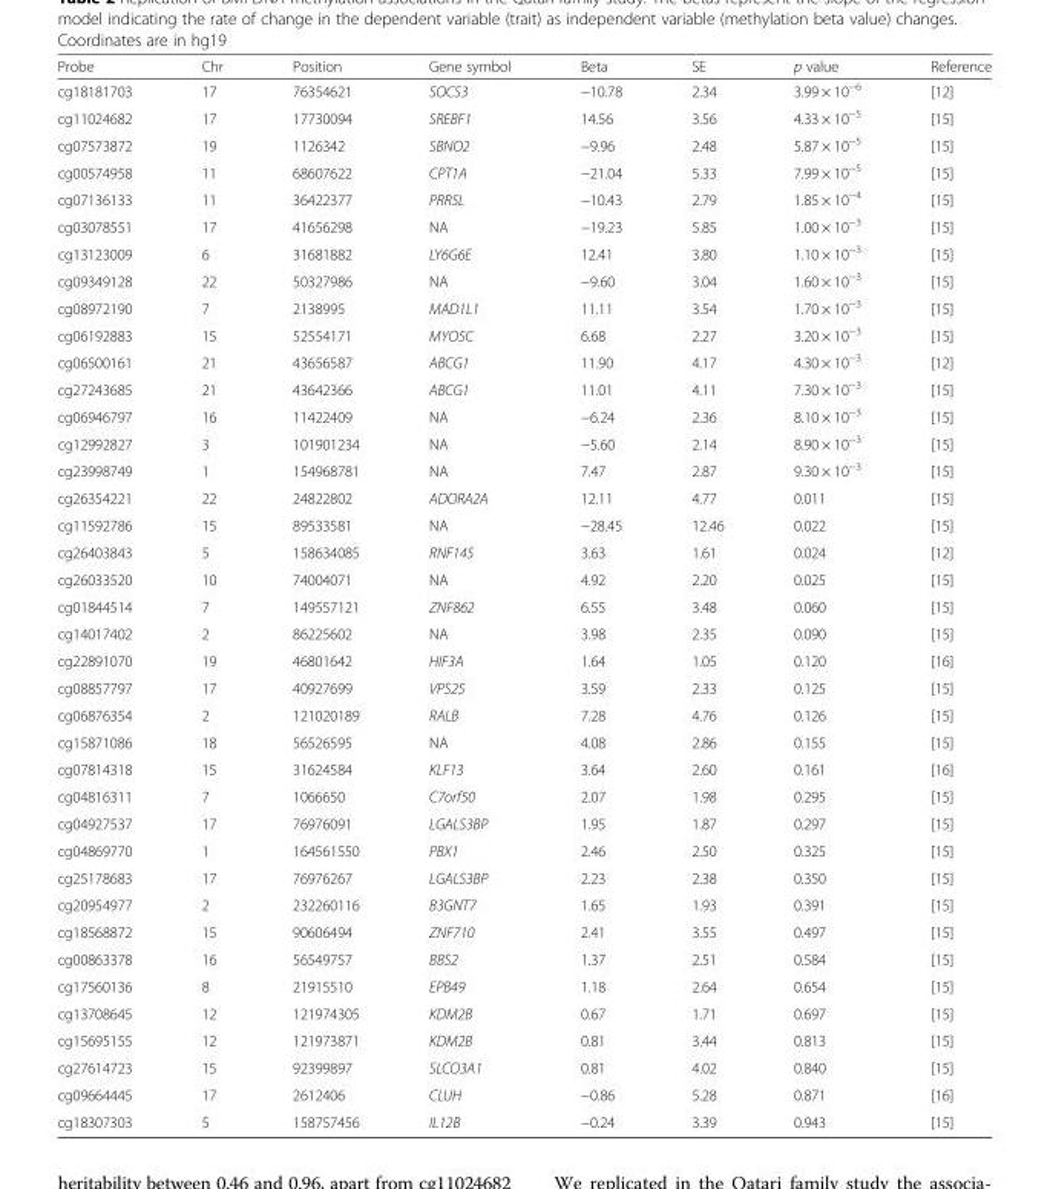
<table><thead><tr><td>Probe</td><td>Chr</td><td>Position</td><td>Gene symbol</td><td>Beta</td><td>SE</td><td>p value</td><td>Reference</td></tr></thead><tbody><tr><td>cg18181703</td><td>17</td><td>76354621</td><td>SOCS3</td><td>−10.78</td><td>2.34</td><td>3.99 × 10<sup>−6</sup></td><td>[12]</td></tr><tr><td>cg11024682</td><td>17</td><td>17730094</td><td>SREBF1</td><td>14.56</td><td>3.56</td><td>4.33 × 10<sup>−5</sup></td><td>[15]</td></tr><tr><td>cg07573872</td><td>19</td><td>1126342</td><td>SBNO2</td><td>−9.96</td><td>2.48</td><td>5.87 × 10<sup>−5</sup></td><td>[15]</td></tr><tr><td>cg00574958</td><td>11</td><td>68607622</td><td>CPT1A</td><td>−21.04</td><td>5.33</td><td>7.99 × 10<sup>−5</sup></td><td>[15]</td></tr><tr><td>cg07136133</td><td>11</td><td>36422377</td><td>PRR5L</td><td>−10.43</td><td>2.79</td><td>1.85 × 10<sup>−4</sup></td><td>[15]</td></tr><tr><td>cg03078551</td><td>17</td><td>41656298</td><td>NA</td><td>−19.23</td><td>5.85</td><td>1.00 × 10<sup>−3</sup></td><td>[15]</td></tr><tr><td>cg13123009</td><td>6</td><td>31681882</td><td>LY6G6E</td><td>12.41</td><td>3.80</td><td>1.10 × 10<sup>−3</sup></td><td>[15]</td></tr><tr><td>cg09349128</td><td>22</td><td>50327986</td><td>NA</td><td>−9.60</td><td>3.04</td><td>1.60 × 10<sup>−3</sup></td><td>[15]</td></tr><tr><td>cg08972190</td><td>7</td><td>2138995</td><td>MAD1L1</td><td>11.11</td><td>3.54</td><td>1.70 × 10<sup>−3</sup></td><td>[15]</td></tr><tr><td>cg06192883</td><td>15</td><td>52554171</td><td>MYO5C</td><td>6.68</td><td>2.27</td><td>3.20 × 10<sup>−3</sup></td><td>[15]</td></tr><tr><td>cg06500161</td><td>21</td><td>43656587</td><td>ABCG1</td><td>11.90</td><td>4.17</td><td>4.30 × 10<sup>−3</sup></td><td>[12]</td></tr><tr><td>cg27243685</td><td>21</td><td>43642366</td><td>ABCG1</td><td>11.01</td><td>4.11</td><td>7.30 × 10<sup>−3</sup></td><td>[15]</td></tr><tr><td>cg06946797</td><td>16</td><td>11422409</td><td>NA</td><td>−6.24</td><td>2.36</td><td>8.10 × 10<sup>−3</sup></td><td>[15]</td></tr><tr><td>cg12992827</td><td>3</td><td>101901234</td><td>NA</td><td>−5.60</td><td>2.14</td><td>8.90 × 10<sup>−3</sup></td><td>[15]</td></tr><tr><td>cg23998749</td><td>1</td><td>154968781</td><td>NA</td><td>7.47</td><td>2.87</td><td>9.30 × 10<sup>−3</sup></td><td>[15]</td></tr><tr><td>cg26354221</td><td>22</td><td>24822802</td><td>ADORA2A</td><td>12.11</td><td>4.77</td><td>0.011</td><td>[15]</td></tr><tr><td>cg11592786</td><td>15</td><td>89533581</td><td>NA</td><td>−28.45</td><td>12.46</td><td>0.022</td><td>[15]</td></tr><tr><td>cg26403843</td><td>5</td><td>158634085</td><td>RNF145</td><td>3.63</td><td>1.61</td><td>0.024</td><td>[12]</td></tr><tr><td>cg26033520</td><td>10</td><td>74004071</td><td>NA</td><td>4.92</td><td>2.20</td><td>0.025</td><td>[15]</td></tr><tr><td>cg01844514</td><td>7</td><td>149557121</td><td>ZNF862</td><td>6.55</td><td>3.48</td><td>0.060</td><td>[15]</td></tr><tr><td>cg14017402</td><td>2</td><td>86225602</td><td>NA</td><td>3.98</td><td>2.35</td><td>0.090</td><td>[15]</td></tr><tr><td>cg22891070</td><td>19</td><td>46801642</td><td>HIF3A</td><td>1.64</td><td>1.05</td><td>0.120</td><td>[16]</td></tr><tr><td>cg08857797</td><td>17</td><td>40927699</td><td>VPS25</td><td>3.59</td><td>2.33</td><td>0.125</td><td>[15]</td></tr><tr><td>cg06876354</td><td>2</td><td>121020189</td><td>RALB</td><td>7.28</td><td>4.76</td><td>0.126</td><td>[15]</td></tr><tr><td>cg15871086</td><td>18</td><td>56526595</td><td>NA</td><td>4.08</td><td>2.86</td><td>0.155</td><td>[15]</td></tr><tr><td>cg07814318</td><td>15</td><td>31624584</td><td>KLF13</td><td>3.64</td><td>2.60</td><td>0.161</td><td>[16]</td></tr><tr><td>cg04816311</td><td>7</td><td>1066650</td><td>C7orf50</td><td>2.07</td><td>1.98</td><td>0.295</td><td>[15]</td></tr><tr><td>cg04927537</td><td>17</td><td>76976091</td><td>LGALS3BP</td><td>1.95</td><td>1.87</td><td>0.297</td><td>[15]</td></tr><tr><td>cg04869770</td><td>1</td><td>164561550</td><td>PBX1</td><td>2.46</td><td>2.50</td><td>0.325</td><td>[15]</td></tr><tr><td>cg25178683</td><td>17</td><td>76976267</td><td>LGALS3BP</td><td>2.23</td><td>2.38</td><td>0.350</td><td>[15]</td></tr><tr><td>cg20954977</td><td>2</td><td>232260116</td><td>B3GNT7</td><td>1.65</td><td>1.93</td><td>0.391</td><td>[15]</td></tr><tr><td>cg18568872</td><td>15</td><td>90606494</td><td>ZNF710</td><td>2.41</td><td>3.55</td><td>0.497</td><td>[15]</td></tr><tr><td>cg00863378</td><td>16</td><td>56549757</td><td>BBS2</td><td>1.37</td><td>2.51</td><td>0.584</td><td>[15]</td></tr><tr><td>cg17560136</td><td>8</td><td>21915510</td><td>EPB49</td><td>1.18</td><td>2.64</td><td>0.654</td><td>[15]</td></tr><tr><td>cg13708645</td><td>12</td><td>121974305</td><td>KDM2B</td><td>0.67</td><td>1.71</td><td>0.697</td><td>[15]</td></tr><tr><td>cg15695155</td><td>12</td><td>121973871</td><td>KDM2B</td><td>0.81</td><td>3.44</td><td>0.813</td><td>[15]</td></tr><tr><td>cg27614723</td><td>15</td><td>92399897</td><td>SLCO3A1</td><td>0.81</td><td>4.02</td><td>0.840</td><td>[15]</td></tr><tr><td>cg09664445</td><td>17</td><td>2612406</td><td>CLUH</td><td>−0.86</td><td>5.28</td><td>0.871</td><td>[16]</td></tr><tr><td>cg18307303</td><td>5</td><td>158757456</td><td>IL12B</td><td>−0.24</td><td>3.39</td><td>0.943</td><td>[15]</td></tr></tbody></table>